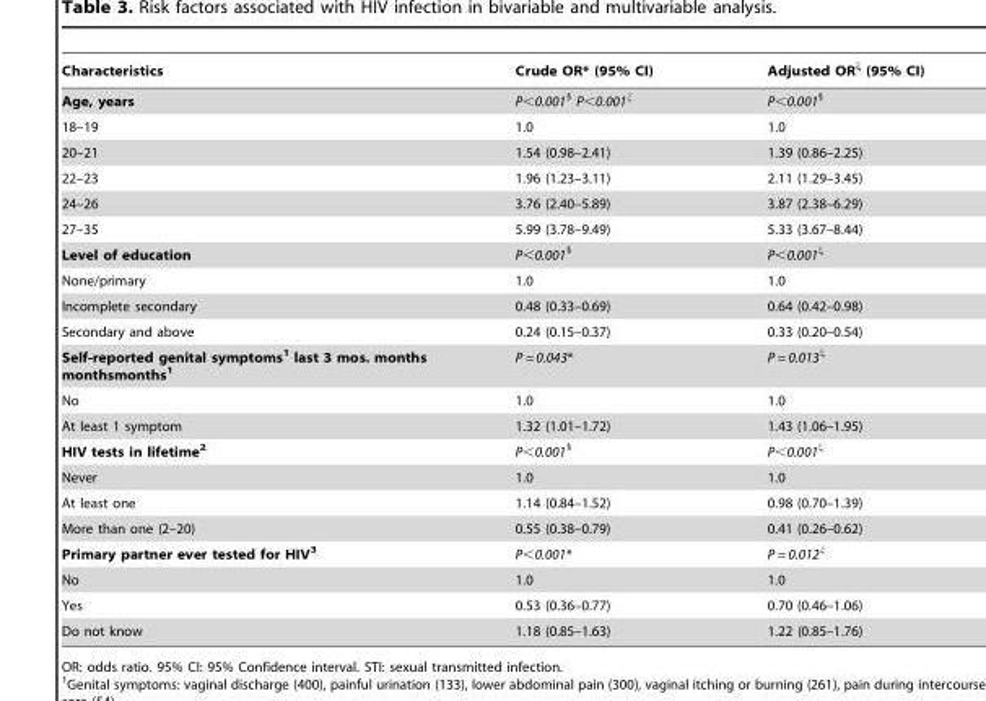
<table><thead><tr><td>Characteristics</td><td>Crude OR* (95% CI)</td><td>Adjusted ORξ (95% CI)</td></tr></thead><tbody><tr><td>Age, years</td><td>P&lt;0.001§ P&lt;0.001ξ</td><td>P&lt;0.001§</td></tr><tr><td>18–19</td><td>1.0</td><td>1.0</td></tr><tr><td>20–21</td><td>1.54 (0.98–2.41)</td><td>1.39 (0.86–2.25)</td></tr><tr><td>22–23</td><td>1.96 (1.23–3.11)</td><td>2.11 (1.29–3.45)</td></tr><tr><td>24–26</td><td>3.76 (2.40–5.89)</td><td>3.87 (2.38–6.29)</td></tr><tr><td>27–35</td><td>5.99 (3.78–9.49)</td><td>5.33 (3.67–8.44)</td></tr><tr><td>Level of education</td><td>P&lt;0.001§</td><td>P&lt;0.001ξ</td></tr><tr><td>None/primary</td><td>1.0</td><td>1.0</td></tr><tr><td>Incomplete secondary</td><td>0.48 (0.33–0.69)</td><td>0.64 (0.42–0.98)</td></tr><tr><td>Secondary and above</td><td>0.24 (0.15–0.37)</td><td>0.33 (0.20–0.54)</td></tr><tr><td>Self-reported genital symptoms1 last 3 mos. months monthsmonths1</td><td>P = 0.043*</td><td>P = 0.013ξ</td></tr><tr><td>No</td><td>1.0</td><td>1.0</td></tr><tr><td>At least 1 symptom</td><td>1.32 (1.01–1.72)</td><td>1.43 (1.06–1.95)</td></tr><tr><td>HIV tests in lifetime2</td><td>P&lt;0.001§</td><td>P&lt;0.001ξ</td></tr><tr><td>Never</td><td>1.0</td><td>1.0</td></tr><tr><td>At least one</td><td>1.14 (0.84–1.52)</td><td>0.98 (0.70–1.39)</td></tr><tr><td>More than one (2–20)</td><td>0.55 (0.38–0.79)</td><td>0.41 (0.26–0.62)</td></tr><tr><td>Primary partner ever tested for HIV3</td><td>P&lt;0.001*</td><td>P = 0.012ξ</td></tr><tr><td>No</td><td>1.0</td><td>1.0</td></tr><tr><td>Yes</td><td>0.53 (0.36–0.77)</td><td>0.70 (0.46–1.06)</td></tr><tr><td>Do not know</td><td>1.18 (0.85–1.63)</td><td>1.22 (0.85–1.76)</td></tr></tbody></table>